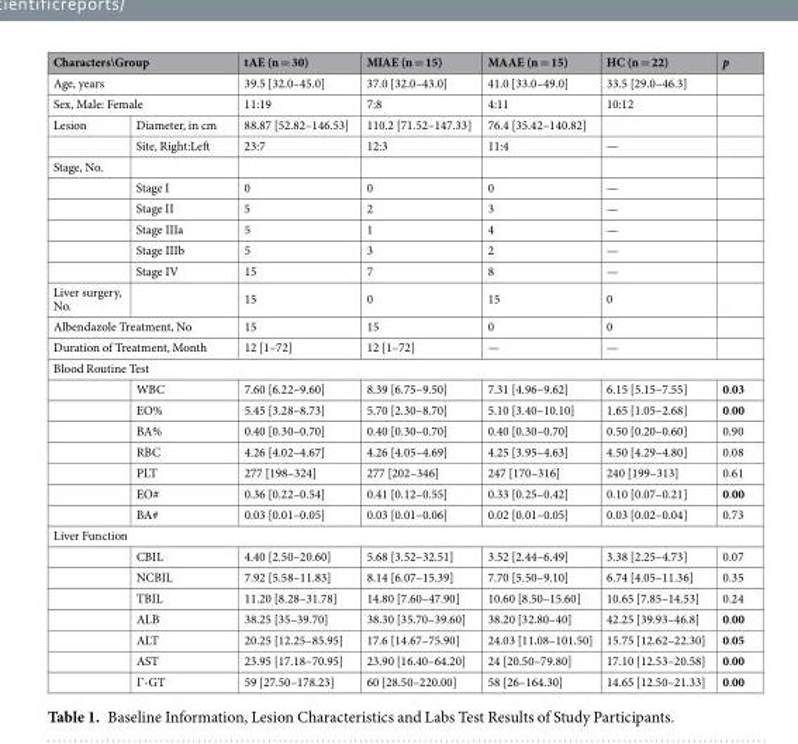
<table><thead><tr><td rowspan="3" colspan="2">Characters\Group Age, years Sex, Male: Female</td><td rowspan="4">tAE (n = 30) 39.5 [32.0–45.0] 11:19 88.87 [52.82–146.53]</td><td rowspan="4">MIAE (n = 15) 37.0 [32.0–43.0] 7:8 110.2 [71.52–147.33]</td><td rowspan="4">MAAE (n = 15) 41.0 [33.0–49.0] 4:11 76.4 [35.42–140.82]</td><td rowspan="4">HC (n = 22) 33.5 [29.0–46.3] 10:12</td><td rowspan="4">p</td></tr><tr></tr><tr></tr><tr><td>Lesion</td><td>Diameter, in cm</td></tr></thead><tbody><tr><td></td><td>Site, Right:Left</td><td>23:7</td><td>12:3</td><td>11:4</td><td>—</td><td></td></tr><tr><td colspan="7">Stage, No.</td></tr><tr><td></td><td>Stage I</td><td>0</td><td>0</td><td>0</td><td>—</td><td></td></tr><tr><td></td><td>Stage II</td><td>5</td><td>2</td><td>3</td><td>—</td><td></td></tr><tr><td></td><td>Stage IIIa</td><td>5</td><td>1</td><td>4</td><td>—</td><td></td></tr><tr><td></td><td>Stage IIIb</td><td>5</td><td>3</td><td>2</td><td>—</td><td></td></tr><tr><td></td><td>Stage IV</td><td>15</td><td>7</td><td>8</td><td>—</td><td></td></tr><tr><td>Liver surgery, No.</td><td></td><td>15</td><td>0</td><td>15</td><td>0</td><td></td></tr><tr><td colspan="2">Albendazole Treatment, No</td><td>15</td><td>15</td><td>0</td><td>0</td><td></td></tr><tr><td colspan="2">Duration of Treatment, Month</td><td>12 [1–72]</td><td>12 [1–72]</td><td>—</td><td>—</td><td></td></tr><tr><td colspan="7">Blood Routine Test</td></tr><tr><td></td><td>WBC</td><td>7.60 [6.22–9.60]</td><td>8.39 [6.75–9.50]</td><td>7.31 [4.96–9.62]</td><td>6.15 [5.15–7.55]</td><td>0.03</td></tr><tr><td></td><td>EO%</td><td>5.45 [3.28–8.73]</td><td>5.70 [2.30–8.70]</td><td>5.10 [3.40–10.10]</td><td>1.65 [1.05–2.68]</td><td>0.00</td></tr><tr><td></td><td>BA%</td><td>0.40 [0.30–0.70]</td><td>0.40 [0.30–0.70]</td><td>0.40 [0.30–0.70]</td><td>0.50 [0.20–0.60]</td><td>0.90</td></tr><tr><td></td><td>RBC</td><td>4.26 [4.02–4.67]</td><td>4.26 [4.05–4.69]</td><td>4.25 [3.95–4.63]</td><td>4.50 [4.29–4.80]</td><td>0.08</td></tr><tr><td></td><td>PLT</td><td>277 [198–324]</td><td>277 [202–346]</td><td>247 [170–316]</td><td>240 [199–313]</td><td>0.61</td></tr><tr><td></td><td>EO#</td><td>0.36 [0.22–0.54]</td><td>0.41 [0.12–0.55]</td><td>0.33 [0.25–0.42]</td><td>0.10 [0.07–0.21]</td><td>0.00</td></tr><tr><td></td><td>BA#</td><td>0.03 [0.01–0.05]</td><td>0.03 [0.01–0.06]</td><td>0.02 [0.01–0.05]</td><td>0.03 [0.02–0.04]</td><td>0.73</td></tr><tr><td colspan="7">Liver Function</td></tr><tr><td></td><td>CBIL</td><td>4.40 [2.50–20.60]</td><td>5.68 [3.52–32.51]</td><td>3.52 [2.44–6.49]</td><td>3.38 [2.25–4.73]</td><td>0.07</td></tr><tr><td></td><td>NCBIL</td><td>7.92 [5.58–11.83]</td><td>8.14 [6.07–15.39]</td><td>7.70 [5.50–9.10]</td><td>6.74 [4.05–11.36]</td><td>0.35</td></tr><tr><td></td><td>TBIL</td><td>11.20 [8.28–31.78]</td><td>14.80 [7.60–47.90]</td><td>10.60 [8.50–15.60]</td><td>10.65 [7.85–14.53]</td><td>0.24</td></tr><tr><td></td><td>ALB</td><td>38.25 [35–39.70]</td><td>38.30 [35.70–39.60]</td><td>38.20 [32.80–40]</td><td>42.25 [39.93–46.8]</td><td>0.00</td></tr><tr><td></td><td>ALT</td><td>20.25 [12.25–85.95]</td><td>17.6 [14.67–75.90]</td><td>24.03 [11.08–101.50]</td><td>15.75 [12.62–22.30]</td><td>0.05</td></tr><tr><td></td><td>AST</td><td>23.95 [17.18–70.95]</td><td>23.90 [16.40–64.20]</td><td>24 [20.50–79.80]</td><td>17.10 [12.53–20.58]</td><td>0.00</td></tr><tr><td></td><td>Γ-GT</td><td>59 [27.50–178.23]</td><td>60 [28.50–220.00]</td><td>58 [26–164.30]</td><td>14.65 [12.50–21.33]</td><td>0.00</td></tr></tbody></table>